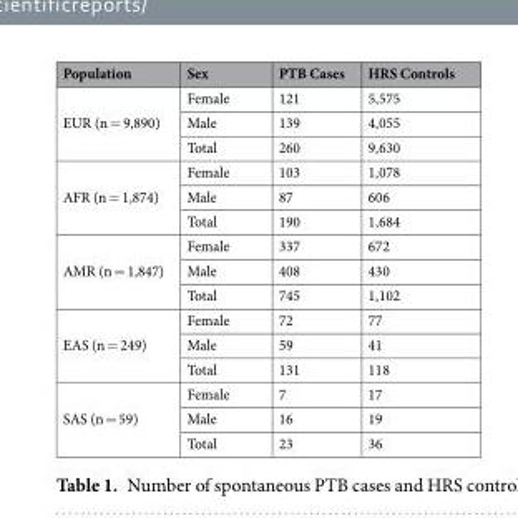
<table><thead><tr><td>Population</td><td>Sex</td><td>PTB Cases</td><td>HRS Controls</td></tr></thead><tbody><tr><td rowspan="3">EUR (n = 9,890)</td><td>Female</td><td>121</td><td>5,575</td></tr><tr><td>Male</td><td>139</td><td>4,055</td></tr><tr><td>Total</td><td>260</td><td>9,630</td></tr><tr><td rowspan="3">AFR (n = 1,874)</td><td>Female</td><td>103</td><td>1,078</td></tr><tr><td>Male</td><td>87</td><td>606</td></tr><tr><td>Total</td><td>190</td><td>1,684</td></tr><tr><td rowspan="3">AMR (n = 1,847)</td><td>Female</td><td>337</td><td>672</td></tr><tr><td>Male</td><td>408</td><td>430</td></tr><tr><td>Total</td><td>745</td><td>1,102</td></tr><tr><td rowspan="3">EAS (n = 249)</td><td>Female</td><td>72</td><td>77</td></tr><tr><td>Male</td><td>59</td><td>41</td></tr><tr><td>Total</td><td>131</td><td>118</td></tr><tr><td rowspan="3">SAS (n = 59)</td><td>Female</td><td>7</td><td>17</td></tr><tr><td>Male</td><td>16</td><td>19</td></tr><tr><td>Total</td><td>23</td><td>36</td></tr></tbody></table>